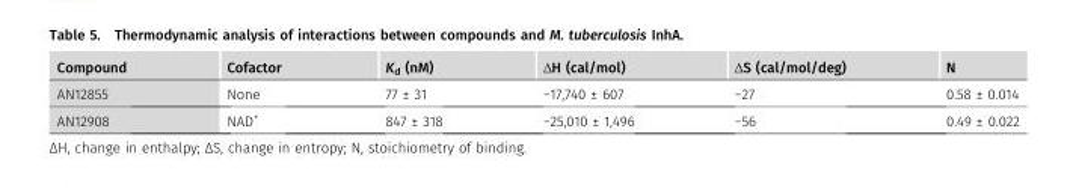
<table><thead><tr><td>Compound</td><td>Cofactor</td><td>K<sub>d</sub> (nM)</td><td>ΔH (cal/mol)</td><td>ΔS (cal/mol/deg)</td><td>N</td></tr></thead><tbody><tr><td>AN12855</td><td>None</td><td>77 ± 31</td><td>−17,740 ± 607</td><td>−27</td><td>0.58 ± 0.014</td></tr><tr><td>AN12908</td><td>NAD<sup>+</sup></td><td>847 ± 318</td><td>−25,010 ± 1,496</td><td>−56</td><td>0.49 ± 0.022</td></tr></tbody></table>